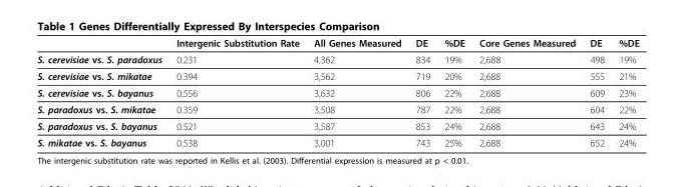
<table><thead><tr><td></td><td>Intergenic Substitution Rate</td><td>All Genes Measured</td><td>DE</td><td>%DE</td><td>Core Genes Measured</td><td>DE</td><td>%DE</td></tr></thead><tbody><tr><td>S. cerevisiae vs. S. paradoxus</td><td>0.231</td><td>4,362</td><td>834</td><td>19%</td><td>2,688</td><td>498</td><td>19%</td></tr><tr><td>S. cerevisiae vs. S. mikatae</td><td>0.394</td><td>3,562</td><td>719</td><td>20%</td><td>2,688</td><td>555</td><td>21%</td></tr><tr><td>S. cerevisiae vs. S. bayanus</td><td>0.556</td><td>3,632</td><td>806</td><td>22%</td><td>2,688</td><td>609</td><td>23%</td></tr><tr><td>S. paradoxus vs. S. mikatae</td><td>0.359</td><td>3,508</td><td>787</td><td>22%</td><td>2,688</td><td>604</td><td>22%</td></tr><tr><td>S. paradoxus vs. S. bayanus</td><td>0.521</td><td>3,587</td><td>853</td><td>24%</td><td>2,688</td><td>643</td><td>24%</td></tr><tr><td>S. mikatae vs. S. bayanus</td><td>0.538</td><td>3,001</td><td>743</td><td>25%</td><td>2,688</td><td>652</td><td>24%</td></tr></tbody></table>